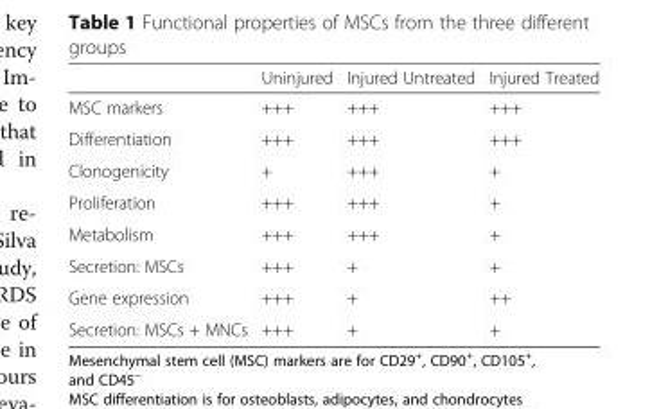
<table><thead><tr><td></td><td>Uninjured</td><td>Injured Untreated</td><td>Injured Treated</td></tr></thead><tbody><tr><td>MSC markers</td><td>+++</td><td>+++</td><td>+++</td></tr><tr><td>Differentiation</td><td>+++</td><td>+++</td><td>+++</td></tr><tr><td>Clonogenicity</td><td>+</td><td>+++</td><td>+</td></tr><tr><td>Proliferation</td><td>+++</td><td>+++</td><td>+</td></tr><tr><td>Metabolism</td><td>+++</td><td>+++</td><td>+</td></tr><tr><td>Secretion: MSCs</td><td>+++</td><td>+</td><td>+</td></tr><tr><td>Gene expression</td><td>+++</td><td>+</td><td>++</td></tr><tr><td>Secretion: MSCs + MNCs</td><td>+++</td><td>+</td><td>+</td></tr></tbody></table>